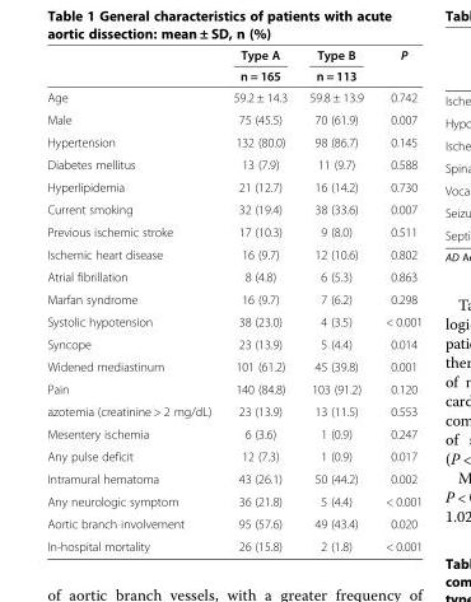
<table><thead><tr><td rowspan="2"></td><td rowspan="2">Type A n = 165</td><td rowspan="2">Type B n = 113</td><td rowspan="2">P</td></tr><tr></tr></thead><tbody><tr><td>Age</td><td>59.2 ± 14.3</td><td>59.8 ± 13.9</td><td>0.742</td></tr><tr><td>Male</td><td>75 (45.5)</td><td>70 (61.9)</td><td>0.007</td></tr><tr><td>Hypertension</td><td>132 (80.0)</td><td>98 (86.7)</td><td>0.145</td></tr><tr><td>Diabetes mellitus</td><td>13 (7.9)</td><td>11 (9.7)</td><td>0.588</td></tr><tr><td>Hyperlipidemia</td><td>21 (12.7)</td><td>16 (14.2)</td><td>0.730</td></tr><tr><td>Current smoking</td><td>32 (19.4)</td><td>38 (33.6)</td><td>0.007</td></tr><tr><td>Previous ischemic stroke</td><td>17 (10.3)</td><td>9 (8.0)</td><td>0.511</td></tr><tr><td>Ischemic heart disease</td><td>16 (9.7)</td><td>12 (10.6)</td><td>0.802</td></tr><tr><td>Atrial fibrillation</td><td>8 (4.8)</td><td>6 (5.3)</td><td>0.863</td></tr><tr><td>Marfan syndrome</td><td>16 (9.7)</td><td>7 (6.2)</td><td>0.298</td></tr><tr><td>Systolic hypotension</td><td>38 (23.0)</td><td>4 (3.5)</td><td>&lt; 0.001</td></tr><tr><td>Syncope</td><td>23 (13.9)</td><td>5 (4.4)</td><td>0.014</td></tr><tr><td>Widened mediastinum</td><td>101 (61.2)</td><td>45 (39.8)</td><td>0.001</td></tr><tr><td>Pain</td><td>140 (84.8)</td><td>103 (91.2)</td><td>0.120</td></tr><tr><td>azotemia (creatinine &gt; 2 mg/dL)</td><td>23 (13.9)</td><td>13 (11.5)</td><td>0.553</td></tr><tr><td>Mesentery ischemia</td><td>6 (3.6)</td><td>1 (0.9)</td><td>0.247</td></tr><tr><td>Any pulse deficit</td><td>12 (7.3)</td><td>1 (0.9)</td><td>0.017</td></tr><tr><td>Intramural hematoma</td><td>43 (26.1)</td><td>50 (44.2)</td><td>0.002</td></tr><tr><td>Any neurologic symptom</td><td>36 (21.8)</td><td>5 (4.4)</td><td>&lt; 0.001</td></tr><tr><td>Aortic branch involvement</td><td>95 (57.6)</td><td>49 (43.4)</td><td>0.020</td></tr><tr><td>In-hospital mortality</td><td>26 (15.8)</td><td>2 (1.8)</td><td>&lt; 0.001</td></tr></tbody></table>